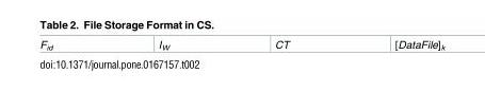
<table><tbody><tr><td>F<sub>id</sub></td><td>I<sub>W</sub></td><td>CT</td><td>[DataFile]<sub>k</sub></td></tr></tbody></table>